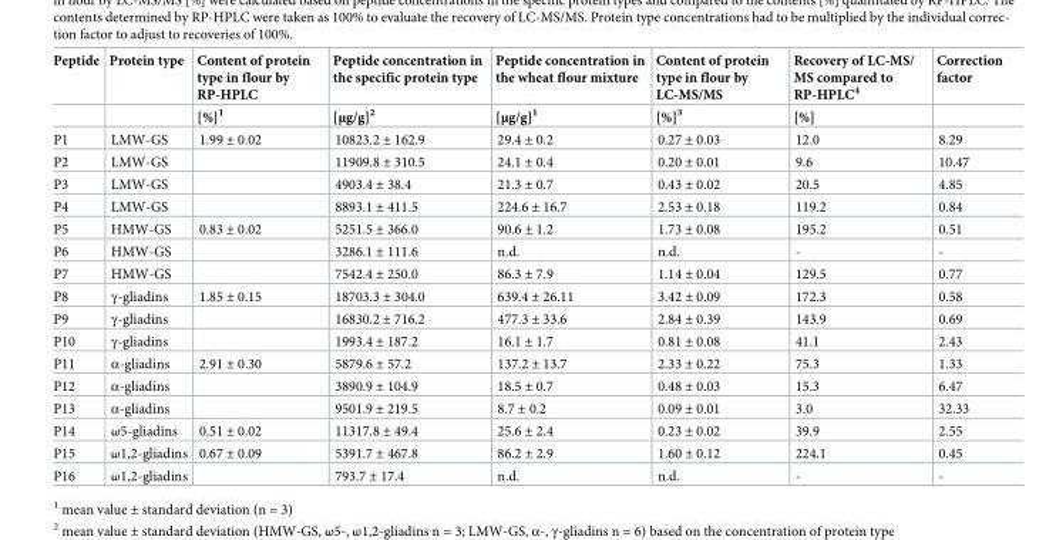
<table><thead><tr><td rowspan="2">Peptide</td><td rowspan="2">Protein type</td><td rowspan="2">Content of protein type in flour by RP-HPLC [%]<sup>1</sup></td><td rowspan="2">Peptide concentration in the specific protein type [μg/g]<sup>2</sup></td><td rowspan="2">Peptide concentration in the wheat flour mixture [μg/g]<sup>1</sup></td><td rowspan="2">Content of protein type in flour by LC-MS/MS [%]<sup>3</sup></td><td rowspan="2">Recovery of LC-MS/ MS compared to RP-HPLC<sup>4</sup> [%]</td><td rowspan="2">Correction factor</td></tr><tr></tr></thead><tbody><tr><td>P1</td><td>LMW-GS</td><td>1.99 ± 0.02</td><td>10823.2 ± 162.9</td><td>29.4 ± 0.2</td><td>0.27 ± 0.03</td><td>12.0</td><td>8.29</td></tr><tr><td>P2</td><td>LMW-GS</td><td></td><td>11909.8 ± 310.5</td><td>24.1 ± 0.4</td><td>0.20 ± 0.01</td><td>9.6</td><td>10.47</td></tr><tr><td>P3</td><td>LMW-GS</td><td></td><td>4903.4 ± 38.4</td><td>21.3 ± 0.7</td><td>0.43 ± 0.02</td><td>20.5</td><td>4.85</td></tr><tr><td>P4</td><td>LMW-GS</td><td></td><td>8893.1 ± 411.5</td><td>224.6 ± 16.7</td><td>2.53 ± 0.18</td><td>119.2</td><td>0.84</td></tr><tr><td>P5</td><td>HMW-GS</td><td>0.83 ± 0.02</td><td>5251.5 ± 366.0</td><td>90.6 ± 1.2</td><td>1.73 ± 0.08</td><td>195.2</td><td>0.51</td></tr><tr><td>P6</td><td>HMW-GS</td><td></td><td>3286.1 ± 111.6</td><td>n.d.</td><td>n.d.</td><td>-</td><td>-</td></tr><tr><td>P7</td><td>HMW-GS</td><td></td><td>7542.4 ± 250.0</td><td>86.3 ± 7.9</td><td>1.14 ± 0.04</td><td>129.5</td><td>0.77</td></tr><tr><td>P8</td><td>γ-gliadins</td><td>1.85 ± 0.15</td><td>18703.3 ± 304.0</td><td>639.4 ± 26.11</td><td>3.42 ± 0.09</td><td>172.3</td><td>0.58</td></tr><tr><td>P9</td><td>γ-gliadins</td><td></td><td>16830.2 ± 716.2</td><td>477.3 ± 33.6</td><td>2.84 ± 0.39</td><td>143.9</td><td>0.69</td></tr><tr><td>P10</td><td>γ-gliadins</td><td></td><td>1993.4 ± 187.2</td><td>16.1 ± 1.7</td><td>0.81 ± 0.08</td><td>41.1</td><td>2.43</td></tr><tr><td>P11</td><td>α-gliadins</td><td>2.91 ± 0.30</td><td>5879.6 ± 57.2</td><td>137.2 ± 13.7</td><td>2.33 ± 0.22</td><td>75.3</td><td>1.33</td></tr><tr><td>P12</td><td>α-gliadins</td><td></td><td>3890.9 ± 104.9</td><td>18.5 ± 0.7</td><td>0.48 ± 0.03</td><td>15.3</td><td>6.47</td></tr><tr><td>P13</td><td>α-gliadins</td><td></td><td>9501.9 ± 219.5</td><td>8.7 ± 0.2</td><td>0.09 ± 0.01</td><td>3.0</td><td>32.33</td></tr><tr><td>P14</td><td>ω5-gliadins</td><td>0.51 ± 0.02</td><td>11317.8 ± 49.4</td><td>25.6 ± 2.4</td><td>0.23 ± 0.02</td><td>39.9</td><td>2.55</td></tr><tr><td>P15</td><td>ω1,2-gliadins</td><td>0.67 ± 0.09</td><td>5391.7 ± 467.8</td><td>86.2 ± 2.9</td><td>1.60 ± 0.12</td><td>224.1</td><td>0.45</td></tr><tr><td>P16</td><td>ω1,2-gliadins</td><td></td><td>793.7 ± 17.4</td><td>n.d.</td><td>n.d.</td><td>-</td><td>-</td></tr></tbody></table>